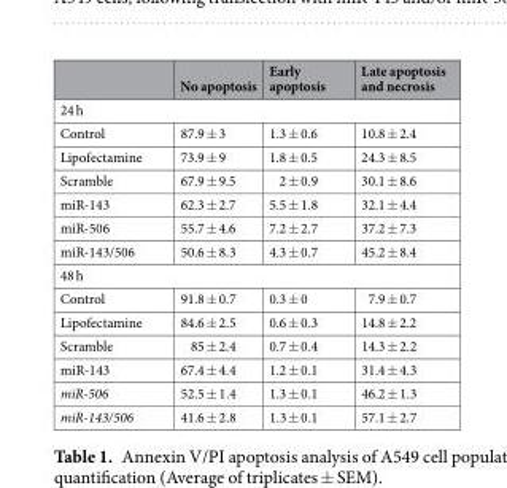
<table><thead><tr><td></td><td>No apoptosis</td><td>Early apoptosis</td><td>Late apoptosis and necrosis</td></tr></thead><tbody><tr><td colspan="4">24 h</td></tr><tr><td>Control</td><td>87.9 ± 3</td><td>1.3 ± 0.6</td><td>10.8 ± 2.4</td></tr><tr><td>Lipofectamine</td><td>73.9 ± 9</td><td>1.8 ± 0.5</td><td>24.3 ± 8.5</td></tr><tr><td>Scramble</td><td>67.9 ± 9.5</td><td>2 ± 0.9</td><td>30.1 ± 8.6</td></tr><tr><td>miR-143</td><td>62.3 ± 2.7</td><td>5.5 ± 1.8</td><td>32.1 ± 4.4</td></tr><tr><td>miR-506</td><td>55.7 ± 4.6</td><td>7.2 ± 2.7</td><td>37.2 ± 7.3</td></tr><tr><td>miR-143/506</td><td>50.6 ± 8.3</td><td>4.3 ± 0.7</td><td>45.2 ± 8.4</td></tr><tr><td colspan="4">48 h</td></tr><tr><td>Control</td><td>91.8 ± 0.7</td><td>0.3 ± 0</td><td>7.9 ± 0.7</td></tr><tr><td>Lipofectamine</td><td>84.6 ± 2.5</td><td>0.6 ± 0.3</td><td>14.8 ± 2.2</td></tr><tr><td>Scramble</td><td>85 ± 2.4</td><td>0.7 ± 0.4</td><td>14.3 ± 2.2</td></tr><tr><td>miR-143</td><td>67.4 ± 4.4</td><td>1.2 ± 0.1</td><td>31.4 ± 4.3</td></tr><tr><td>miR-506</td><td>52.5 ± 1.4</td><td>1.3 ± 0.1</td><td>46.2 ± 1.3</td></tr><tr><td>miR-143/506</td><td>41.6 ± 2.8</td><td>1.3 ± 0.1</td><td>57.1 ± 2.7</td></tr></tbody></table>